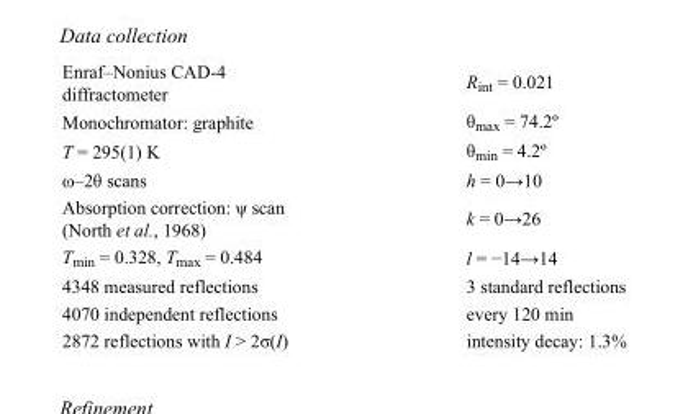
<table><tbody><tr><td>Enraf–Nonius CAD-4 diffractometer</td><td>R<sub>int</sub> = 0.021</td></tr><tr><td>Monochromator: graphite</td><td>θ<sub>max</sub> = 74.2º</td></tr><tr><td>T = 295(1) K</td><td>θ<sub>min</sub> = 4.2º</td></tr><tr><td>ω–2θ scans</td><td>h = 0→10</td></tr><tr><td>Absorption correction: ψ scan (North et al., 1968)</td><td>k = 0→26</td></tr><tr><td>T<sub>min</sub> = 0.328, T<sub>max</sub> = 0.484</td><td>l = −14→14</td></tr><tr><td>4348 measured reflections</td><td>3 standard reflections</td></tr><tr><td>4070 independent reflections</td><td>every 120 min</td></tr><tr><td>2872 reflections with I &gt; 2σ(I)</td><td>intensity decay: 1.3%</td></tr></tbody></table>